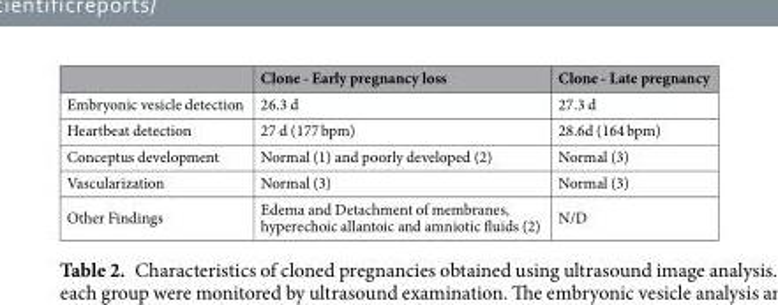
<table><thead><tr><td></td><td>Clone - Early pregnancy loss</td><td>Clone - Late pregnancy</td></tr></thead><tbody><tr><td>Embryonic vesicle detection</td><td>26.3 d</td><td>27.3 d</td></tr><tr><td>Heartbeat detection</td><td>27 d (177 bpm)</td><td>28.6d (164 bpm)</td></tr><tr><td>Conceptus development</td><td>Normal (1) and poorly developed (2)</td><td>Normal (3)</td></tr><tr><td>Vascularization</td><td>Normal (3)</td><td>Normal (3)</td></tr><tr><td>Other Findings</td><td>Edema and Detachment of membranes, hyperechoic allantoic and amniotic fluids (2)</td><td>N/D</td></tr></tbody></table>